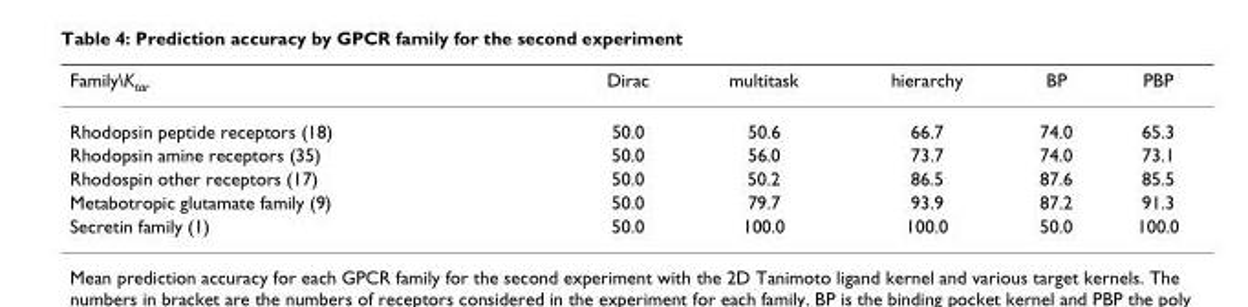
<table><thead><tr><td>Family\K<sub>tar</sub></td><td>Dirac</td><td>multitask</td><td>hierarchy</td><td>BP</td><td>PBP</td></tr></thead><tbody><tr><td>Rhodopsin peptide receptors (18)</td><td>50.0</td><td>50.6</td><td>66.7</td><td>74.0</td><td>65.3</td></tr><tr><td>Rhodopsin amine receptors (35)</td><td>50.0</td><td>56.0</td><td>73.7</td><td>74.0</td><td>73.1</td></tr><tr><td>Rhodospin other receptors (17)</td><td>50.0</td><td>50.2</td><td>86.5</td><td>87.6</td><td>85.5</td></tr><tr><td>Metabotropic glutamate family (9)</td><td>50.0</td><td>79.7</td><td>93.9</td><td>87.2</td><td>91.3</td></tr><tr><td>Secretin family (1)</td><td>50.0</td><td>100.0</td><td>100.0</td><td>50.0</td><td>100.0</td></tr></tbody></table>